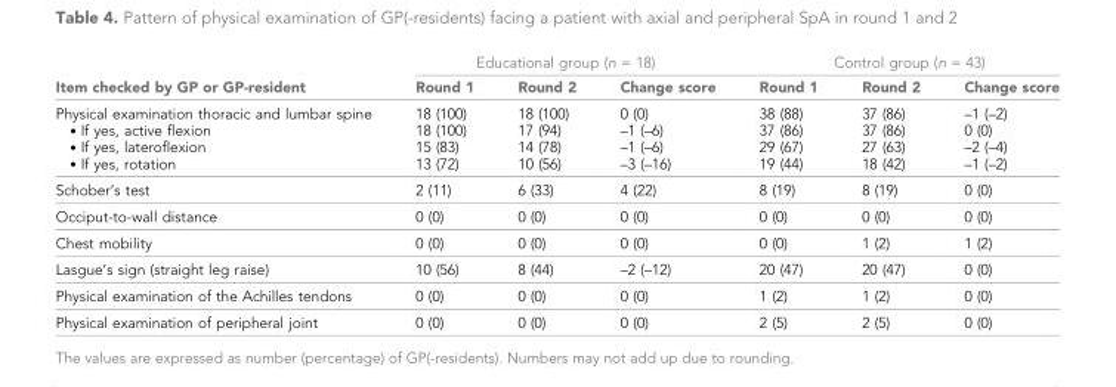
<table><thead><tr><td rowspan="2">Item checked by GP or GP-resident</td><td colspan="3">Educational group (n = 18)</td><td colspan="3">Control group (n = 43)</td></tr><tr><td>Round 1</td><td>Round 2</td><td>Change score</td><td>Round 1</td><td>Round 2</td><td>Change score</td></tr></thead><tbody><tr><td>Physical examination thoracic and lumbar spine . If yes, active flexion . If yes, lateroflexion . If yes, rotation</td><td>18 (100) 18 (100) 15 (83) 13 (72)</td><td>18 (100) 17 (94) 14 (78) 10 (56)</td><td>0 (0) –1 (–6) –1 (–6) –3 (–16)</td><td>38 (88) 37 (86) 29 (67) 19 (44)</td><td>37 (86) 37 (86) 27 (63) 18 (42)</td><td>–1 (–2) 0 (0) –2 (–4) –1 (–2)</td></tr><tr><td>Schober’s test</td><td>2 (11)</td><td>6 (33)</td><td>4 (22)</td><td>8 (19)</td><td>8 (19)</td><td>0 (0)</td></tr><tr><td>Occiput-to-wall distance</td><td>0 (0)</td><td>0 (0)</td><td>0 (0)</td><td>0 (0)</td><td>0 (0)</td><td>0 (0)</td></tr><tr><td>Chest mobility</td><td>0 (0)</td><td>0 (0)</td><td>0 (0)</td><td>0 (0)</td><td>1 (2)</td><td>1 (2)</td></tr><tr><td>Lasgue’s sign (straight leg raise)</td><td>10 (56)</td><td>8 (44)</td><td>–2 (–12)</td><td>20 (47)</td><td>20 (47)</td><td>0 (0)</td></tr><tr><td>Physical examination of the Achilles tendons</td><td>0 (0)</td><td>0 (0)</td><td>0 (0)</td><td>1 (2)</td><td>1 (2)</td><td>0 (0)</td></tr><tr><td>Physical examination of peripheral joint</td><td>0 (0)</td><td>0 (0)</td><td>0 (0)</td><td>2 (5)</td><td>2 (5)</td><td>0 (0)</td></tr></tbody></table>